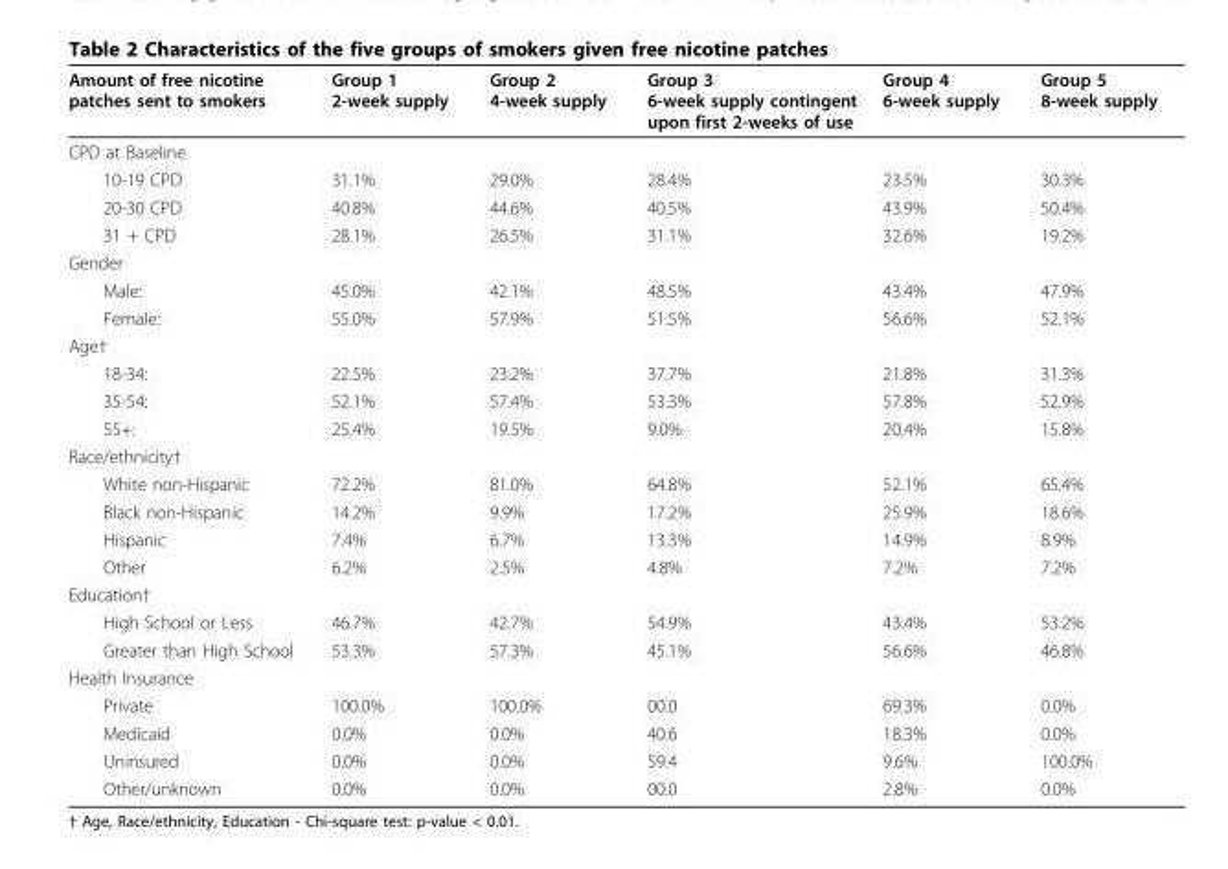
<table><thead><tr><td>Amount of free nicotine patches sent to smokers</td><td>Group 1 2-week supply</td><td>Group 2 4-week supply</td><td>Group 3 6-week supply contingent upon first 2-weeks of use</td><td>Group 4 6-week supply</td><td>Group 5 8-week supply</td></tr></thead><tbody><tr><td colspan="6">CPD at Baseline</td></tr><tr><td>10-19 CPD</td><td>31.1%</td><td>29.0%</td><td>28.4%</td><td>23.5%</td><td>30.3%</td></tr><tr><td>20-30 CPD</td><td>40.8%</td><td>44.6%</td><td>40.5%</td><td>43.9%</td><td>50.4%</td></tr><tr><td>31 + CPD</td><td>28.1%</td><td>26.5%</td><td>31.1%</td><td>32.6%</td><td>19.2%</td></tr><tr><td colspan="6">Gender</td></tr><tr><td>Male:</td><td>45.0%</td><td>42.1%</td><td>48.5%</td><td>43.4%</td><td>47.9%</td></tr><tr><td>Female:</td><td>55.0%</td><td>57.9%</td><td>51.5%</td><td>56.6%</td><td>52.1%</td></tr><tr><td colspan="6">Age†</td></tr><tr><td>18-34:</td><td>22.5%</td><td>23.2%</td><td>37.7%</td><td>21.8%</td><td>31.3%</td></tr><tr><td>35-54:</td><td>52.1%</td><td>57.4%</td><td>53.3%</td><td>57.8%</td><td>52.9%</td></tr><tr><td>55+:</td><td>25.4%</td><td>19.5%</td><td>9.0%</td><td>20.4%</td><td>15.8%</td></tr><tr><td colspan="6">Race/ethnicity†</td></tr><tr><td>White non-Hispanic</td><td>72.2%</td><td>81.0%</td><td>64.8%</td><td>52.1%</td><td>65.4%</td></tr><tr><td>Black non-Hispanic</td><td>14.2%</td><td>9.9%</td><td>17.2%</td><td>25.9%</td><td>18.6%</td></tr><tr><td>Hispanic</td><td>7.4%</td><td>6.7%</td><td>13.3%</td><td>14.9%</td><td>8.9%</td></tr><tr><td>Other</td><td>6.2%</td><td>2.5%</td><td>4.8%</td><td>7.2%</td><td>7.2%</td></tr><tr><td colspan="6">Education†</td></tr><tr><td>High School or Less</td><td>46.7%</td><td>42.7%</td><td>54.9%</td><td>43.4%</td><td>53.2%</td></tr><tr><td>Greater than High School</td><td>53.3%</td><td>57.3%</td><td>45.1%</td><td>56.6%</td><td>46.8%</td></tr><tr><td colspan="6">Health Insurance</td></tr><tr><td>Private</td><td>100.0%</td><td>100.0%</td><td>00.0</td><td>69.3%</td><td>0.0%</td></tr><tr><td>Medicaid</td><td>0.0%</td><td>0.0%</td><td>40.6</td><td>18.3%</td><td>0.0%</td></tr><tr><td>Uninsured</td><td>0.0%</td><td>0.0%</td><td>59.4</td><td>9.6%</td><td>100.0%</td></tr><tr><td>Other/unknown</td><td>0.0%</td><td>0.0%</td><td>00.0</td><td>2.8%</td><td>0.0%</td></tr></tbody></table>